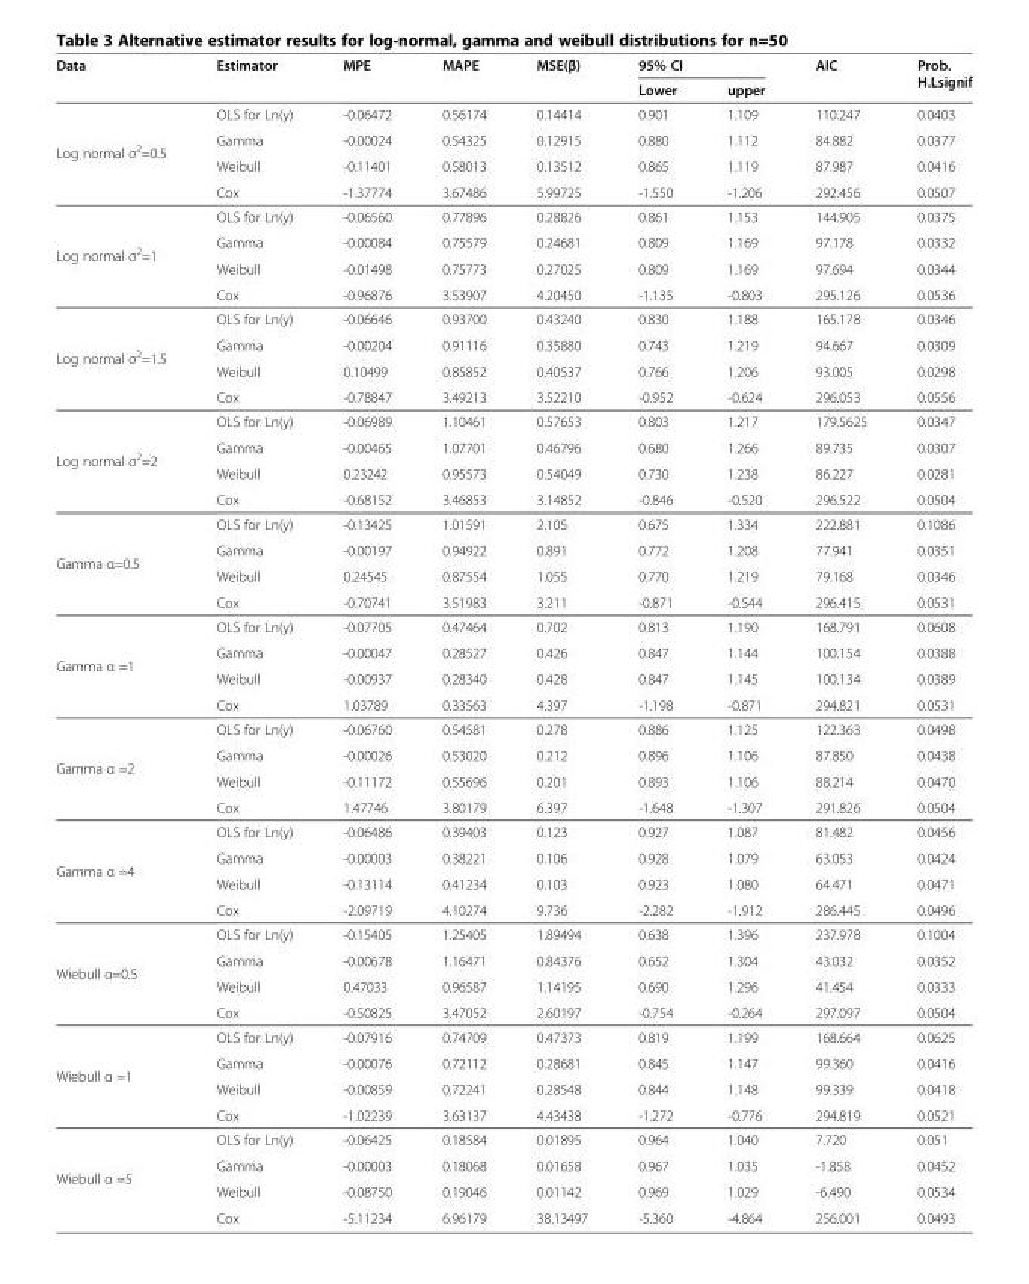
<table><thead><tr><td rowspan="2">Data</td><td rowspan="2">Estimator</td><td rowspan="2">MPE</td><td rowspan="2">MAPE</td><td rowspan="2">MSE(β)</td><td colspan="2">95% CI</td><td rowspan="2">AIC</td><td rowspan="2">Prob. H.Lsignif</td></tr><tr><td>Lower</td><td>upper</td></tr></thead><tbody><tr><td rowspan="4">Log normal σ<sup>2</sup>=0.5</td><td>OLS for Ln(y)</td><td>-0.06472</td><td>0.56174</td><td>0.14414</td><td>0.901</td><td>1.109</td><td>110.247</td><td>0.0403</td></tr><tr><td>Gamma</td><td>-0.00024</td><td>0.54325</td><td>0.12915</td><td>0.880</td><td>1.112</td><td>84.882</td><td>0.0377</td></tr><tr><td>Weibull</td><td>-0.11401</td><td>0.58013</td><td>0.13512</td><td>0.865</td><td>1.119</td><td>87.987</td><td>0.0416</td></tr><tr><td>Cox</td><td>-1.37774</td><td>3.67486</td><td>5.99725</td><td>-1.550</td><td>-1.206</td><td>292.456</td><td>0.0507</td></tr><tr><td rowspan="4">Log normal σ<sup>2</sup>=1</td><td>OLS for Ln(y)</td><td>-0.06560</td><td>0.77896</td><td>0.28826</td><td>0.861</td><td>1.153</td><td>144.905</td><td>0.0375</td></tr><tr><td>Gamma</td><td>-0.00084</td><td>0.75579</td><td>0.24681</td><td>0.809</td><td>1.169</td><td>97.178</td><td>0.0332</td></tr><tr><td>Weibull</td><td>-0.01498</td><td>0.75773</td><td>0.27025</td><td>0.809</td><td>1.169</td><td>97.694</td><td>0.0344</td></tr><tr><td>Cox</td><td>-0.96876</td><td>3.53907</td><td>4.20450</td><td>-1.135</td><td>-0.803</td><td>295.126</td><td>0.0536</td></tr><tr><td rowspan="4">Log normal σ<sup>2</sup>=1.5</td><td>OLS for Ln(y)</td><td>-0.06646</td><td>0.93700</td><td>0.43240</td><td>0.830</td><td>1.188</td><td>165.178</td><td>0.0346</td></tr><tr><td>Gamma</td><td>-0.00204</td><td>0.91116</td><td>0.35880</td><td>0.743</td><td>1.219</td><td>94.667</td><td>0.0309</td></tr><tr><td>Weibull</td><td>0.10499</td><td>0.85852</td><td>0.40537</td><td>0.766</td><td>1.206</td><td>93.005</td><td>0.0298</td></tr><tr><td>Cox</td><td>-0.78847</td><td>3.49213</td><td>3.52210</td><td>-0.952</td><td>-0.624</td><td>296.053</td><td>0.0556</td></tr><tr><td rowspan="4">Log normal σ<sup>2</sup>=2</td><td>OLS for Ln(y)</td><td>-0.06989</td><td>1.10461</td><td>0.57653</td><td>0.803</td><td>1.217</td><td>179.5625</td><td>0.0347</td></tr><tr><td>Gamma</td><td>-0.00465</td><td>1.07701</td><td>0.46796</td><td>0.680</td><td>1.266</td><td>89.735</td><td>0.0307</td></tr><tr><td>Weibull</td><td>0.23242</td><td>0.95573</td><td>0.54049</td><td>0.730</td><td>1.238</td><td>86.227</td><td>0.0281</td></tr><tr><td>Cox</td><td>-0.68152</td><td>3.46853</td><td>3.14852</td><td>-0.846</td><td>-0.520</td><td>296.522</td><td>0.0504</td></tr><tr><td rowspan="4">Gamma α=0.5</td><td>OLS for Ln(y)</td><td>-0.13425</td><td>1.01591</td><td>2.105</td><td>0.675</td><td>1.334</td><td>222.881</td><td>0.1086</td></tr><tr><td>Gamma</td><td>-0.00197</td><td>0.94922</td><td>0.891</td><td>0.772</td><td>1.208</td><td>77.941</td><td>0.0351</td></tr><tr><td>Weibull</td><td>0.24545</td><td>0.87554</td><td>1.055</td><td>0.770</td><td>1.219</td><td>79.168</td><td>0.0346</td></tr><tr><td>Cox</td><td>-0.70741</td><td>3.51983</td><td>3.211</td><td>-0.871</td><td>-0.544</td><td>296.415</td><td>0.0531</td></tr><tr><td rowspan="4">Gamma α =1</td><td>OLS for Ln(y)</td><td>-0.07705</td><td>0.47464</td><td>0.702</td><td>0.813</td><td>1.190</td><td>168.791</td><td>0.0608</td></tr><tr><td>Gamma</td><td>-0.00047</td><td>0.28527</td><td>0.426</td><td>0.847</td><td>1.144</td><td>100.154</td><td>0.0388</td></tr><tr><td>Weibull</td><td>-0.00937</td><td>0.28340</td><td>0.428</td><td>0.847</td><td>1.145</td><td>100.134</td><td>0.0389</td></tr><tr><td>Cox</td><td>1.03789</td><td>0.33563</td><td>4.397</td><td>-1.198</td><td>-0.871</td><td>294.821</td><td>0.0531</td></tr><tr><td rowspan="4">Gamma α =2</td><td>OLS for Ln(y)</td><td>-0.06760</td><td>0.54581</td><td>0.278</td><td>0.886</td><td>1.125</td><td>122.363</td><td>0.0498</td></tr><tr><td>Gamma</td><td>-0.00026</td><td>0.53020</td><td>0.212</td><td>0.896</td><td>1.106</td><td>87.850</td><td>0.0438</td></tr><tr><td>Weibull</td><td>-0.11172</td><td>0.55696</td><td>0.201</td><td>0.893</td><td>1.106</td><td>88.214</td><td>0.0470</td></tr><tr><td>Cox</td><td>1.47746</td><td>3.80179</td><td>6.397</td><td>-1.648</td><td>-1.307</td><td>291.826</td><td>0.0504</td></tr><tr><td rowspan="4">Gamma α =4</td><td>OLS for Ln(y)</td><td>-0.06486</td><td>0.39403</td><td>0.123</td><td>0.927</td><td>1.087</td><td>81.482</td><td>0.0456</td></tr><tr><td>Gamma</td><td>-0.00003</td><td>0.38221</td><td>0.106</td><td>0.928</td><td>1.079</td><td>63.053</td><td>0.0424</td></tr><tr><td>Weibull</td><td>-0.13114</td><td>0.41234</td><td>0.103</td><td>0.923</td><td>1.080</td><td>64.471</td><td>0.0471</td></tr><tr><td>Cox</td><td>-2.09719</td><td>4.10274</td><td>9.736</td><td>-2.282</td><td>-1.912</td><td>286.445</td><td>0.0496</td></tr><tr><td rowspan="4">Wiebull α=0.5</td><td>OLS for Ln(y)</td><td>-0.15405</td><td>1.25405</td><td>1.89494</td><td>0.638</td><td>1.396</td><td>237.978</td><td>0.1004</td></tr><tr><td>Gamma</td><td>-0.00678</td><td>1.16471</td><td>0.84376</td><td>0.652</td><td>1.304</td><td>43.032</td><td>0.0352</td></tr><tr><td>Weibull</td><td>0.47033</td><td>0.96587</td><td>1.14195</td><td>0.690</td><td>1.296</td><td>41.454</td><td>0.0333</td></tr><tr><td>Cox</td><td>-0.50825</td><td>3.47052</td><td>2.60197</td><td>-0.754</td><td>-0.264</td><td>297.097</td><td>0.0504</td></tr><tr><td rowspan="4">Wiebull α =1</td><td>OLS for Ln(y)</td><td>-0.07916</td><td>0.74709</td><td>0.47373</td><td>0.819</td><td>1.199</td><td>168.664</td><td>0.0625</td></tr><tr><td>Gamma</td><td>-0.00076</td><td>0.72112</td><td>0.28681</td><td>0.845</td><td>1.147</td><td>99.360</td><td>0.0416</td></tr><tr><td>Weibull</td><td>-0.00859</td><td>0.72241</td><td>0.28548</td><td>0.844</td><td>1.148</td><td>99.339</td><td>0.0418</td></tr><tr><td>Cox</td><td>-1.02239</td><td>3.63137</td><td>4.43438</td><td>-1.272</td><td>-0.776</td><td>294.819</td><td>0.0521</td></tr><tr><td rowspan="4">Wiebull α =5</td><td>OLS for Ln(y)</td><td>-0.06425</td><td>0.18584</td><td>0.01895</td><td>0.964</td><td>1.040</td><td>7.720</td><td>0.051</td></tr><tr><td>Gamma</td><td>-0.00003</td><td>0.18068</td><td>0.01658</td><td>0.967</td><td>1.035</td><td>-1.858</td><td>0.0452</td></tr><tr><td>Weibull</td><td>-0.08750</td><td>0.19046</td><td>0.01142</td><td>0.969</td><td>1.029</td><td>-6.490</td><td>0.0534</td></tr><tr><td>Cox</td><td>-5.11234</td><td>6.96179</td><td>38.13497</td><td>-5.360</td><td>-4.864</td><td>256.001</td><td>0.0493</td></tr></tbody></table>